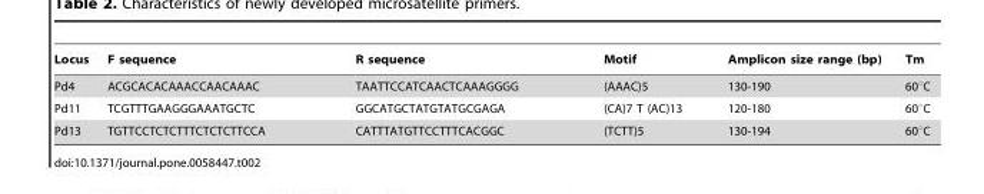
<table><thead><tr><td>Locus</td><td>F sequence</td><td>R sequence</td><td>Motif</td><td>Amplicon size range (bp)</td><td>Tm</td></tr></thead><tbody><tr><td>Pd4</td><td>ACGCACACAAACCAACAAAC</td><td>TAATTCCATCAACTCAAAGGGG</td><td>(AAAC)5</td><td>130-190</td><td>60°C</td></tr><tr><td>Pd11</td><td>TCGTTTGAAGGGAAATGCTC</td><td>GGCATGCTATGTATGCGAGA</td><td>(CA)7 T (AC)13</td><td>120-180</td><td>60°C</td></tr><tr><td>Pd13</td><td>TGTTCCTCTCTTTCTCTCTTCCA</td><td>CATTTATGTTCCTTTCACGGC</td><td>(TCTT)5</td><td>130-194</td><td>60°C</td></tr></tbody></table>